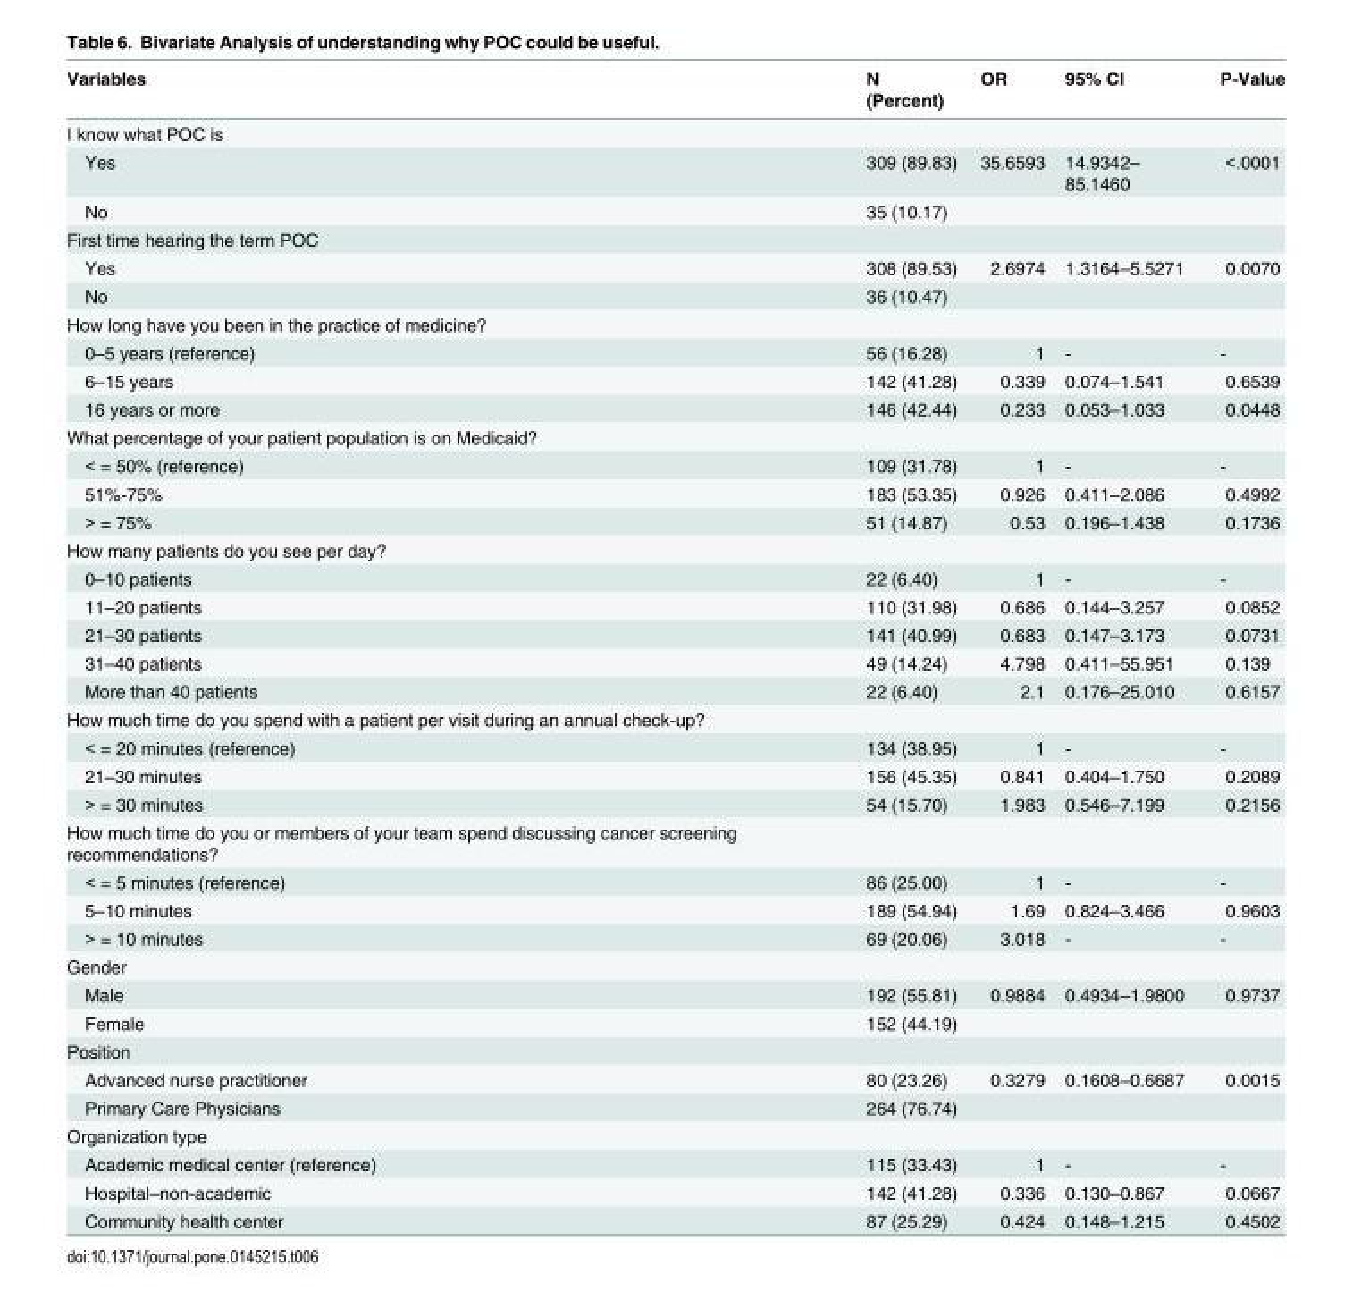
<table><thead><tr><td>Variables</td><td>N (Percent)</td><td>OR</td><td>95% CI</td><td>P-Value</td></tr></thead><tbody><tr><td colspan="5">I know what POC is</td></tr><tr><td>Yes</td><td>309 (89.83)</td><td>35.6593</td><td>14.9342– 85.1460</td><td>&lt;.0001</td></tr><tr><td>No</td><td>35 (10.17)</td><td></td><td></td><td></td></tr><tr><td colspan="5">First time hearing the term POC</td></tr><tr><td>Yes</td><td>308 (89.53)</td><td>2.6974</td><td>1.3164–5.5271</td><td>0.0070</td></tr><tr><td>No</td><td>36 (10.47)</td><td></td><td></td><td></td></tr><tr><td colspan="5">How long have you been in the practice of medicine?</td></tr><tr><td>0–5 years (reference)</td><td>56 (16.28)</td><td>1</td><td>-</td><td>-</td></tr><tr><td>6–15 years</td><td>142 (41.28)</td><td>0.339</td><td>0.074–1.541</td><td>0.6539</td></tr><tr><td>16 years or more</td><td>146 (42.44)</td><td>0.233</td><td>0.053–1.033</td><td>0.0448</td></tr><tr><td colspan="5">What percentage of your patient population is on Medicaid?</td></tr><tr><td>&lt; = 50% (reference)</td><td>109 (31.78)</td><td>1</td><td>-</td><td>-</td></tr><tr><td>51%-75%</td><td>183 (53.35)</td><td>0.926</td><td>0.411–2.086</td><td>0.4992</td></tr><tr><td>&gt; = 75%</td><td>51 (14.87)</td><td>0.53</td><td>0.196–1.438</td><td>0.1736</td></tr><tr><td colspan="5">How many patients do you see per day?</td></tr><tr><td>0–10 patients</td><td>22 (6.40)</td><td>1</td><td>-</td><td>-</td></tr><tr><td>11–20 patients</td><td>110 (31.98)</td><td>0.686</td><td>0.144–3.257</td><td>0.0852</td></tr><tr><td>21–30 patients</td><td>141 (40.99)</td><td>0.683</td><td>0.147–3.173</td><td>0.0731</td></tr><tr><td>31–40 patients</td><td>49 (14.24)</td><td>4.798</td><td>0.411–55.951</td><td>0.139</td></tr><tr><td>More than 40 patients</td><td>22 (6.40)</td><td>2.1</td><td>0.176–25.010</td><td>0.6157</td></tr><tr><td colspan="5">How much time do you spend with a patient per visit during an annual check-up?</td></tr><tr><td>&lt; = 20 minutes (reference)</td><td>134 (38.95)</td><td>1</td><td>-</td><td>-</td></tr><tr><td>21–30 minutes</td><td>156 (45.35)</td><td>0.841</td><td>0.404–1.750</td><td>0.2089</td></tr><tr><td>&gt; = 30 minutes</td><td>54 (15.70)</td><td>1.983</td><td>0.546–7.199</td><td>0.2156</td></tr><tr><td colspan="5">How much time do you or members of your team spend discussing cancer screening recommendations?</td></tr><tr><td>&lt; = 5 minutes (reference)</td><td>86 (25.00)</td><td>1</td><td>-</td><td>-</td></tr><tr><td>5–10 minutes</td><td>189 (54.94)</td><td>1.69</td><td>0.824–3.466</td><td>0.9603</td></tr><tr><td>&gt; = 10 minutes</td><td>69 (20.06)</td><td>3.018</td><td>-</td><td>-</td></tr><tr><td colspan="5">Gender</td></tr><tr><td>Male</td><td>192 (55.81)</td><td>0.9884</td><td>0.4934–1.9800</td><td>0.9737</td></tr><tr><td>Female</td><td>152 (44.19)</td><td></td><td></td><td></td></tr><tr><td colspan="5">Position</td></tr><tr><td>Advanced nurse practitioner</td><td>80 (23.26)</td><td>0.3279</td><td>0.1608–0.6687</td><td>0.0015</td></tr><tr><td>Primary Care Physicians</td><td>264 (76.74)</td><td></td><td></td><td></td></tr><tr><td colspan="5">Organization type</td></tr><tr><td>Academic medical center (reference)</td><td>115 (33.43)</td><td>1</td><td>-</td><td>-</td></tr><tr><td>Hospital–non-academic</td><td>142 (41.28)</td><td>0.336</td><td>0.130–0.867</td><td>0.0667</td></tr><tr><td>Community health center</td><td>87 (25.29)</td><td>0.424</td><td>0.148–1.215</td><td>0.4502</td></tr></tbody></table>